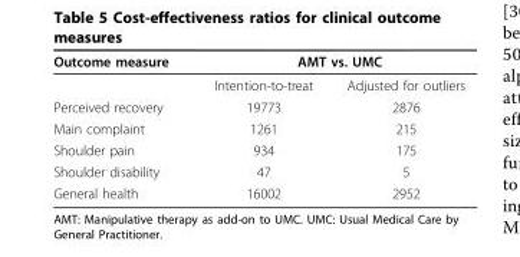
<table><thead><tr><td rowspan="2">Outcome measure</td><td colspan="2">AMT vs. UMC</td></tr><tr><td>Intention-to-treat</td><td>Adjusted for outliers</td></tr></thead><tbody><tr><td>Perceived recovery</td><td>19773</td><td>2876</td></tr><tr><td>Main complaint</td><td>1261</td><td>215</td></tr><tr><td>Shoulder pain</td><td>934</td><td>175</td></tr><tr><td>Shoulder disability</td><td>47</td><td>5</td></tr><tr><td>General health</td><td>16002</td><td>2952</td></tr></tbody></table>